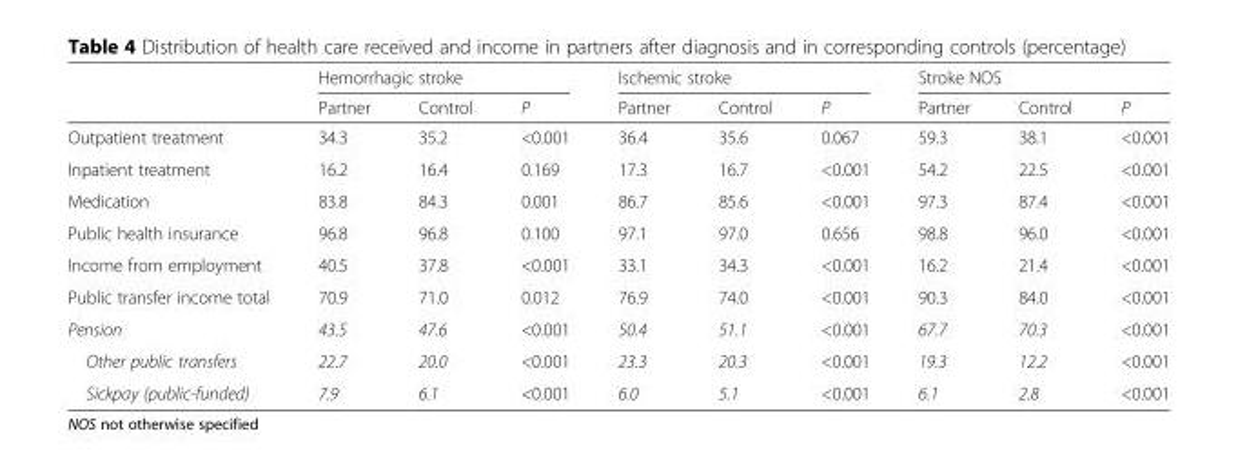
<table><thead><tr><td rowspan="2"></td><td colspan="3">Hemorrhagic stroke</td><td colspan="3">Ischemic stroke</td><td colspan="3">Stroke NOS</td></tr><tr><td>Partner</td><td>Control</td><td>P</td><td>Partner</td><td>Control</td><td>P</td><td>Partner</td><td>Control</td><td>P</td></tr></thead><tbody><tr><td>Outpatient treatment</td><td>34.3</td><td>35.2</td><td>&lt;0.001</td><td>36.4</td><td>35.6</td><td>0.067</td><td>59.3</td><td>38.1</td><td>&lt;0.001</td></tr><tr><td>Inpatient treatment</td><td>16.2</td><td>16.4</td><td>0.169</td><td>17.3</td><td>16.7</td><td>&lt;0.001</td><td>54.2</td><td>22.5</td><td>&lt;0.001</td></tr><tr><td>Medication</td><td>83.8</td><td>84.3</td><td>0.001</td><td>86.7</td><td>85.6</td><td>&lt;0.001</td><td>97.3</td><td>87.4</td><td>&lt;0.001</td></tr><tr><td>Public health insurance</td><td>96.8</td><td>96.8</td><td>0.100</td><td>97.1</td><td>97.0</td><td>0.656</td><td>98.8</td><td>96.0</td><td>&lt;0.001</td></tr><tr><td>Income from employment</td><td>40.5</td><td>37.8</td><td>&lt;0.001</td><td>33.1</td><td>34.3</td><td>&lt;0.001</td><td>16.2</td><td>21.4</td><td>&lt;0.001</td></tr><tr><td>Public transfer income total</td><td>70.9</td><td>71.0</td><td>0.012</td><td>76.9</td><td>74.0</td><td>&lt;0.001</td><td>90.3</td><td>84.0</td><td>&lt;0.001</td></tr><tr><td>Pension</td><td>43.5</td><td>47.6</td><td>&lt;0.001</td><td>50.4</td><td>51.1</td><td>&lt;0.001</td><td>67.7</td><td>70.3</td><td>&lt;0.001</td></tr><tr><td>Other public transfers</td><td>22.7</td><td>20.0</td><td>&lt;0.001</td><td>23.3</td><td>20.3</td><td>&lt;0.001</td><td>19.3</td><td>12.2</td><td>&lt;0.001</td></tr><tr><td>Sickpay (public-funded)</td><td>7.9</td><td>6.1</td><td>&lt;0.001</td><td>6.0</td><td>5.1</td><td>&lt;0.001</td><td>6.1</td><td>2.8</td><td>&lt;0.001</td></tr></tbody></table>